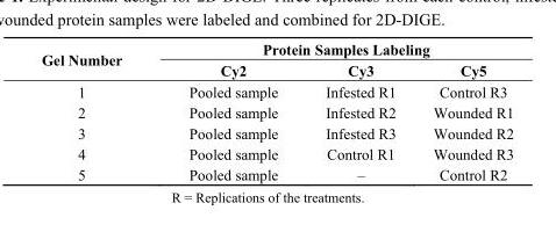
<table><thead><tr><td rowspan="2">Gel Number</td><td colspan="3">Protein Samples Labeling</td></tr><tr><td>Cy2</td><td>Cy3</td><td>Cy5</td></tr></thead><tbody><tr><td>1</td><td>Pooled sample</td><td>Infested R1</td><td>Control R3</td></tr><tr><td>2</td><td>Pooled sample</td><td>Infested R2</td><td>Wounded R1</td></tr><tr><td>3</td><td>Pooled sample</td><td>Infested R3</td><td>Wounded R2</td></tr><tr><td>4</td><td>Pooled sample</td><td>Control R1</td><td>Wounded R3</td></tr><tr><td>5</td><td>Pooled sample</td><td>–</td><td>Control R2</td></tr></tbody></table>